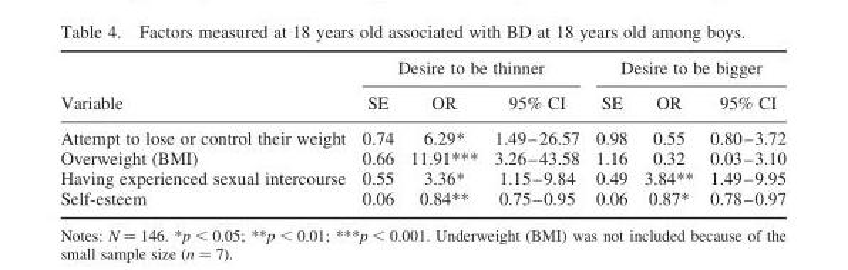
<table><thead><tr><td rowspan="2">Variable</td><td colspan="3">Desire to be thinner</td><td colspan="3">Desire to be bigger</td></tr><tr><td>SE</td><td>OR</td><td>95% CI</td><td>SE</td><td>OR</td><td>95% CI</td></tr></thead><tbody><tr><td>Attempt to lose or control their weight</td><td>0.74</td><td>6.29*</td><td>1.49–26.57</td><td>0.98</td><td>0.55</td><td>0.80–3.72</td></tr><tr><td>Overweight (BMI)</td><td>0.66</td><td>11.91***</td><td>3.26–43.58</td><td>1.16</td><td>0.32</td><td>0.03–3.10</td></tr><tr><td>Having experienced sexual intercourse</td><td>0.55</td><td>3.36*</td><td>1.15–9.84</td><td>0.49</td><td>3.84**</td><td>1.49–9.95</td></tr><tr><td>Self-esteem</td><td>0.06</td><td>0.84**</td><td>0.75–0.95</td><td>0.06</td><td>0.87*</td><td>0.78–0.97</td></tr></tbody></table>